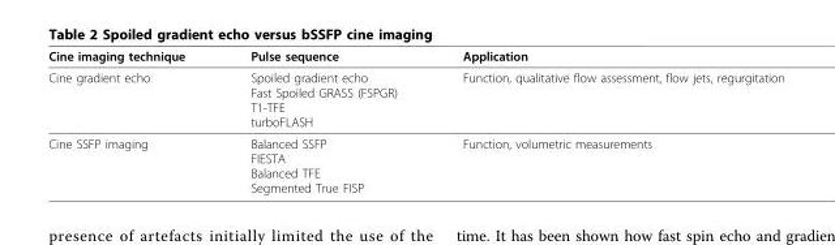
<table><thead><tr><td>Cine imaging technique</td><td>Pulse sequence</td><td>Application</td></tr></thead><tbody><tr><td>Cine gradient echo</td><td>Spoiled gradient echo Fast Spoiled GRASS (FSPGR) T1-TFE turboFLASH</td><td>Function, qualitative flow assessment, flow jets, regurgitation</td></tr><tr><td>Cine SSFP imaging</td><td>Balanced SSFP FIESTA Balanced TFE Segmented True FISP</td><td>Function, volumetric measurements</td></tr></tbody></table>